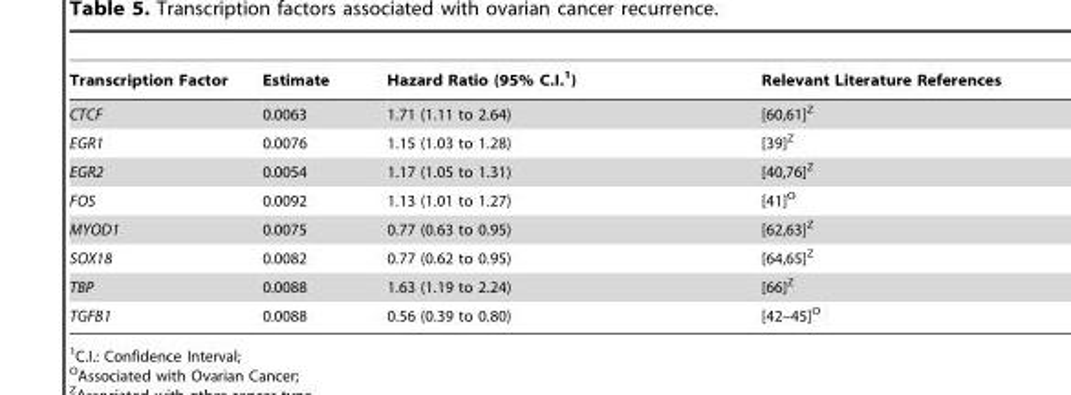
<table><thead><tr><td>Transcription Factor</td><td>Estimate</td><td>Hazard Ratio (95% C.I.<sup>1</sup>)</td><td>Relevant Literature References</td></tr></thead><tbody><tr><td>CTCF</td><td>0.0063</td><td>1.71 (1.11 to 2.64)</td><td>[60,61]Z</td></tr><tr><td>EGR1</td><td>0.0076</td><td>1.15 (1.03 to 1.28)</td><td>[39]Z</td></tr><tr><td>EGR2</td><td>0.0054</td><td>1.17 (1.05 to 1.31)</td><td>[40,76]Z</td></tr><tr><td>FOS</td><td>0.0092</td><td>1.13 (1.01 to 1.27)</td><td>[41]O</td></tr><tr><td>MYOD1</td><td>0.0075</td><td>0.77 (0.63 to 0.95)</td><td>[62,63]Z</td></tr><tr><td>SOX18</td><td>0.0082</td><td>0.77 (0.62 to 0.95)</td><td>[64,65]Z</td></tr><tr><td>TBP</td><td>0.0088</td><td>1.63 (1.19 to 2.24)</td><td>[66]Z</td></tr><tr><td>TGFB1</td><td>0.0088</td><td>0.56 (0.39 to 0.80)</td><td>[42–45]O</td></tr></tbody></table>